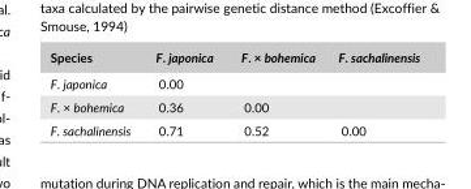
<table><thead><tr><td>Species</td><td>F. japonica</td><td>F. × bohemica</td><td>F. sachalinensis</td></tr></thead><tbody><tr><td>F. japonica</td><td>0.00</td><td></td><td></td></tr><tr><td>F. × bohemica</td><td>0.36</td><td>0.00</td><td></td></tr><tr><td>F. sachalinensis</td><td>0.71</td><td>0.52</td><td>0.00</td></tr></tbody></table>